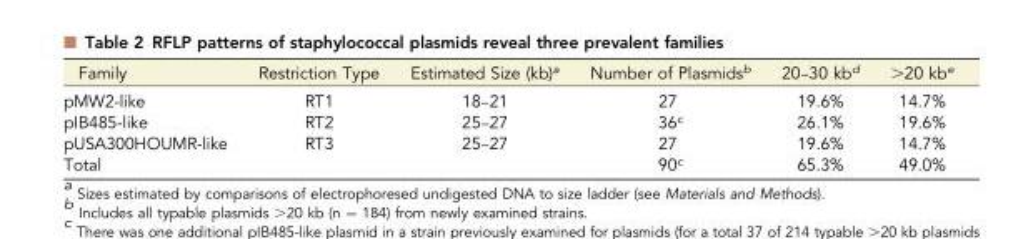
<table><thead><tr><td>Family</td><td>Restriction Type</td><td>Estimated Size (kb)<sup>a</sup></td><td>Number of Plasmids<sup>b</sup></td><td>20–30 kb<sup>d</sup></td><td>&gt;20 kb<sup>e</sup></td></tr></thead><tbody><tr><td>pMW2-like</td><td>RT1</td><td>18–21</td><td>27</td><td>19.6%</td><td>14.7%</td></tr><tr><td>pIB485-like</td><td>RT2</td><td>25–27</td><td>36<sup>c</sup></td><td>26.1%</td><td>19.6%</td></tr><tr><td>pUSA300HOUMR-like</td><td>RT3</td><td>25–27</td><td>27</td><td>19.6%</td><td>14.7%</td></tr><tr><td>Total</td><td></td><td></td><td>90<sup>c</sup></td><td>65.3%</td><td>49.0%</td></tr></tbody></table>